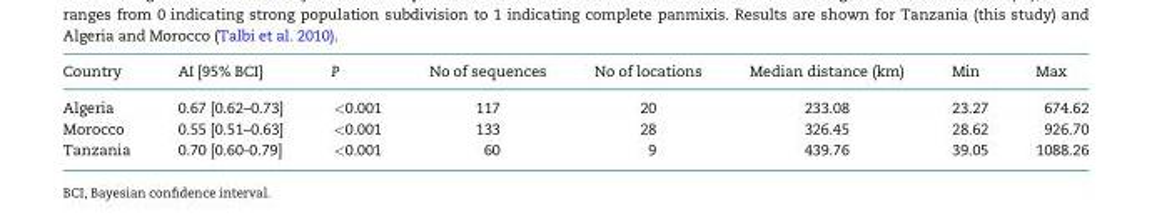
<table><thead><tr><td>Country</td><td>AI [95% BCI]</td><td>P</td><td>No of sequences</td><td>No of locations</td><td>Median distance (km)</td><td>Min</td><td>Max</td></tr></thead><tbody><tr><td>Algeria</td><td>0.67 [0.62–0.73]</td><td>&lt;0.001</td><td>117</td><td>20</td><td>233.08</td><td>23.27</td><td>674.62</td></tr><tr><td>Morocco</td><td>0.55 [0.51–0.63]</td><td>&lt;0.001</td><td>133</td><td>28</td><td>326.45</td><td>28.62</td><td>926.70</td></tr><tr><td>Tanzania</td><td>0.70 [0.60-0.79]</td><td>&lt;0.001</td><td>60</td><td>9</td><td>439.76</td><td>39.05</td><td>1088.26</td></tr></tbody></table>